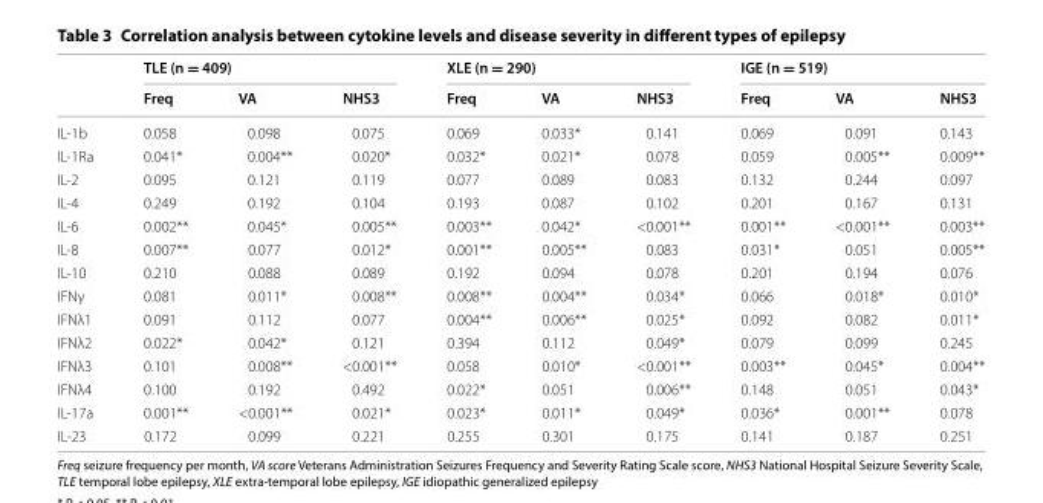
<table><thead><tr><td rowspan="2"></td><td colspan="3">TLE (n = 409)</td><td colspan="3">XLE (n = 290)</td><td colspan="3">IGE (n = 519)</td></tr><tr><td>Freq</td><td>VA</td><td>NHS3</td><td>Freq</td><td>VA</td><td>NHS3</td><td>Freq</td><td>VA</td><td>NHS3</td></tr></thead><tbody><tr><td>IL-1b</td><td>0.058</td><td>0.098</td><td>0.075</td><td>0.069</td><td>0.033*</td><td>0.141</td><td>0.069</td><td>0.091</td><td>0.143</td></tr><tr><td>IL-1Ra</td><td>0.041*</td><td>0.004**</td><td>0.020*</td><td>0.032*</td><td>0.021*</td><td>0.078</td><td>0.059</td><td>0.005**</td><td>0.009**</td></tr><tr><td>IL-2</td><td>0.095</td><td>0.121</td><td>0.119</td><td>0.077</td><td>0.089</td><td>0.083</td><td>0.132</td><td>0.244</td><td>0.097</td></tr><tr><td>IL-4</td><td>0.249</td><td>0.192</td><td>0.104</td><td>0.193</td><td>0.087</td><td>0.102</td><td>0.201</td><td>0.167</td><td>0.131</td></tr><tr><td>IL-6</td><td>0.002**</td><td>0.045*</td><td>0.005**</td><td>0.003**</td><td>0.042*</td><td>&lt;0.001**</td><td>0.001**</td><td>&lt;0.001**</td><td>0.003**</td></tr><tr><td>IL-8</td><td>0.007**</td><td>0.077</td><td>0.012*</td><td>0.001**</td><td>0.005**</td><td>0.083</td><td>0.031*</td><td>0.051</td><td>0.005**</td></tr><tr><td>IL-10</td><td>0.210</td><td>0.088</td><td>0.089</td><td>0.192</td><td>0.094</td><td>0.078</td><td>0.201</td><td>0.194</td><td>0.076</td></tr><tr><td>IFNγ</td><td>0.081</td><td>0.011*</td><td>0.008**</td><td>0.008**</td><td>0.004**</td><td>0.034*</td><td>0.066</td><td>0.018*</td><td>0.010*</td></tr><tr><td>IFNλ1</td><td>0.091</td><td>0.112</td><td>0.077</td><td>0.004**</td><td>0.006**</td><td>0.025*</td><td>0.092</td><td>0.082</td><td>0.011*</td></tr><tr><td>IFNλ2</td><td>0.022*</td><td>0.042*</td><td>0.121</td><td>0.394</td><td>0.112</td><td>0.049*</td><td>0.079</td><td>0.099</td><td>0.245</td></tr><tr><td>IFNλ3</td><td>0.101</td><td>0.008**</td><td>&lt;0.001**</td><td>0.058</td><td>0.010*</td><td>&lt;0.001**</td><td>0.003**</td><td>0.045*</td><td>0.004**</td></tr><tr><td>IFNλ4</td><td>0.100</td><td>0.192</td><td>0.492</td><td>0.022*</td><td>0.051</td><td>0.006**</td><td>0.148</td><td>0.051</td><td>0.043*</td></tr><tr><td>IL-17a</td><td>0.001**</td><td>&lt;0.001**</td><td>0.021*</td><td>0.023*</td><td>0.011*</td><td>0.049*</td><td>0.036*</td><td>0.001**</td><td>0.078</td></tr><tr><td>IL-23</td><td>0.172</td><td>0.099</td><td>0.221</td><td>0.255</td><td>0.301</td><td>0.175</td><td>0.141</td><td>0.187</td><td>0.251</td></tr></tbody></table>